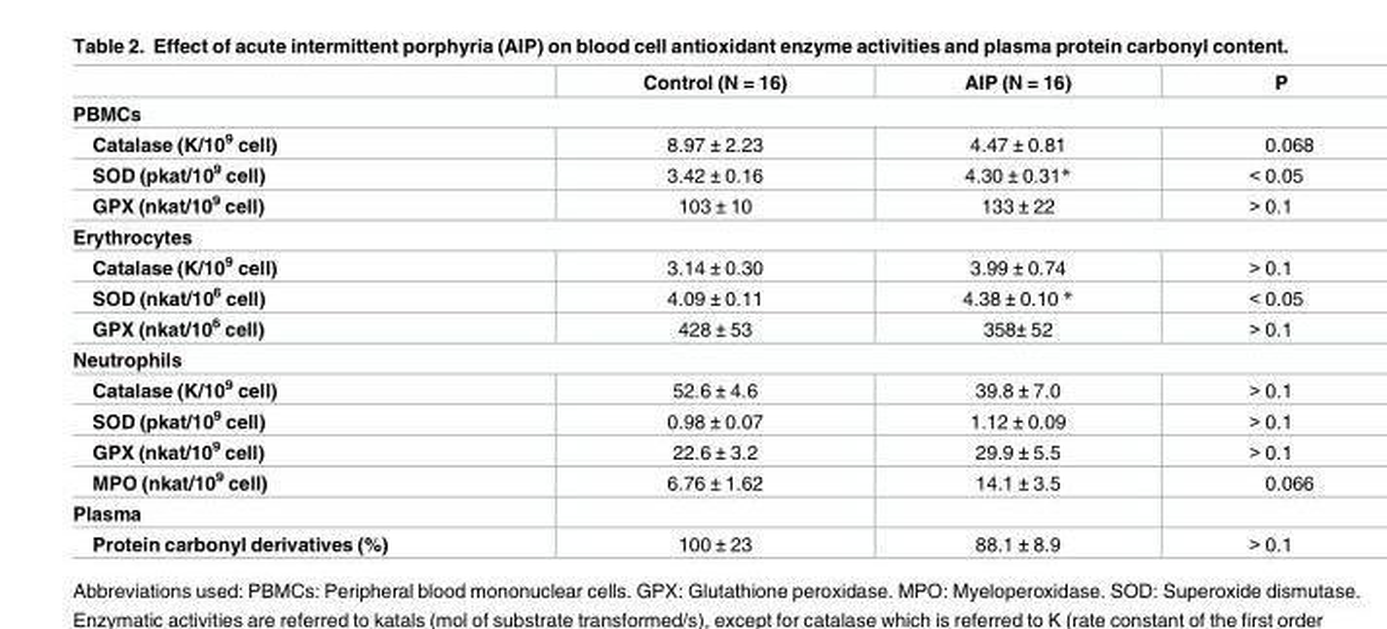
<table><thead><tr><td></td><td>Control (N = 16)</td><td>AIP (N = 16)</td><td>P</td></tr></thead><tbody><tr><td colspan="4">PBMCs</td></tr><tr><td>Catalase (K/10<sup>9</sup> cell)</td><td>8.97 ± 2.23</td><td>4.47 ± 0.81</td><td>0.068</td></tr><tr><td>SOD (pkat/10<sup>9</sup> cell)</td><td>3.42 ± 0.16</td><td>4.30 ± 0.31*</td><td>&lt; 0.05</td></tr><tr><td>GPX (nkat/10<sup>9</sup> cell)</td><td>103 ± 10</td><td>133 ± 22</td><td>&gt; 0.1</td></tr><tr><td colspan="4">Erythrocytes</td></tr><tr><td>Catalase (K/10<sup>9</sup> cell)</td><td>3.14 ± 0.30</td><td>3.99 ± 0.74</td><td>&gt; 0.1</td></tr><tr><td>SOD (nkat/10<sup>6</sup> cell)</td><td>4.09 ± 0.11</td><td>4.38 ± 0.10 *</td><td>&lt; 0.05</td></tr><tr><td>GPX (nkat/10<sup>6</sup> cell)</td><td>428 ± 53</td><td>358± 52</td><td>&gt; 0.1</td></tr><tr><td colspan="4">Neutrophils</td></tr><tr><td>Catalase (K/10<sup>9</sup> cell)</td><td>52.6 ± 4.6</td><td>39.8 ± 7.0</td><td>&gt; 0.1</td></tr><tr><td>SOD (pkat/10<sup>9</sup> cell)</td><td>0.98 ± 0.07</td><td>1.12 ± 0.09</td><td>&gt; 0.1</td></tr><tr><td>GPX (nkat/10<sup>9</sup> cell)</td><td>22.6 ± 3.2</td><td>29.9 ± 5.5</td><td>&gt; 0.1</td></tr><tr><td>MPO (nkat/10<sup>9</sup> cell)</td><td>6.76 ± 1.62</td><td>14.1 ± 3.5</td><td>0.066</td></tr><tr><td colspan="4">Plasma</td></tr><tr><td>Protein carbonyl derivatives (%)</td><td>100 ± 23</td><td>88.1 ± 8.9</td><td>&gt; 0.1</td></tr></tbody></table>